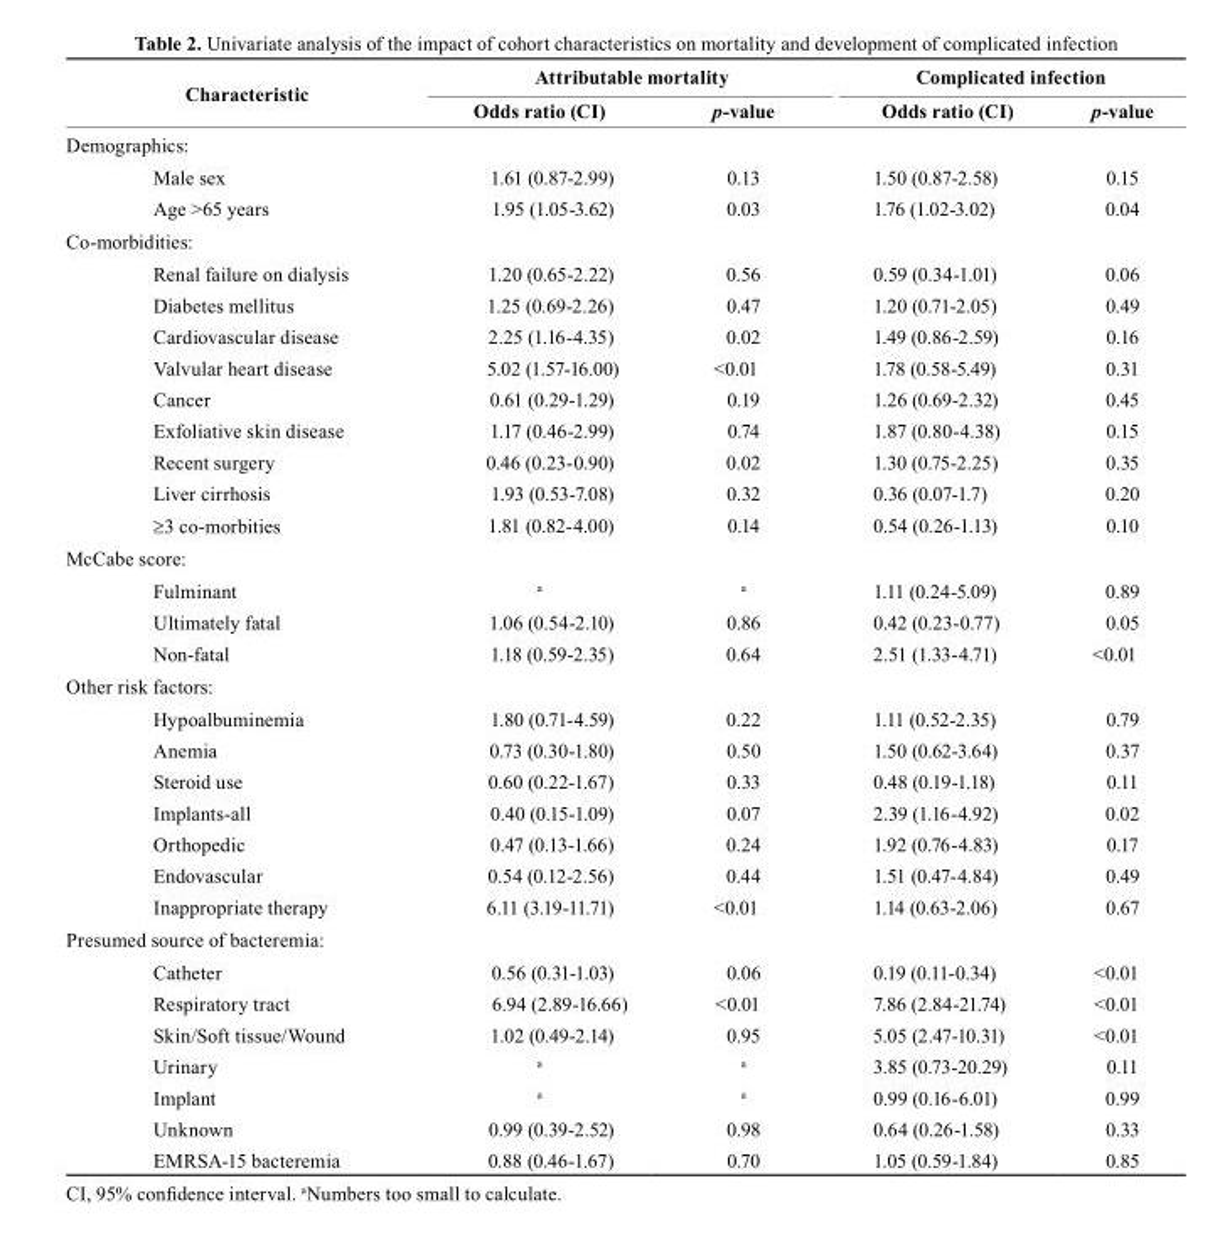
<table><thead><tr><td rowspan="2">characteristic</td><td colspan="2">Attributable mortality</td><td colspan="2">complicated infection</td></tr><tr><td>odds ratio (cI)</td><td>p-value</td><td>odds ratio (cI)</td><td>p-value</td></tr></thead><tbody><tr><td colspan="5">Demographics:</td></tr><tr><td>Male sex</td><td>1.61 (0.87-2.99)</td><td>0.13</td><td>1.50 (0.87-2.58)</td><td>0.15</td></tr><tr><td>Age &gt;65 years</td><td>1.95 (1.05-3.62)</td><td>0.03</td><td>1.76 (1.02-3.02)</td><td>0.04</td></tr><tr><td colspan="5">Co-morbidities:</td></tr><tr><td>Renal failure on dialysis</td><td>1.20 (0.65-2.22)</td><td>0.56</td><td>0.59 (0.34-1.01)</td><td>0.06</td></tr><tr><td>Diabetes mellitus</td><td>1.25 (0.69-2.26)</td><td>0.47</td><td>1.20 (0.71-2.05)</td><td>0.49</td></tr><tr><td>Cardiovascular disease</td><td>2.25 (1.16-4.35)</td><td>0.02</td><td>1.49 (0.86-2.59)</td><td>0.16</td></tr><tr><td>Valvular heart disease</td><td>5.02 (1.57-16.00)</td><td>&lt;0.01</td><td>1.78 (0.58-5.49)</td><td>0.31</td></tr><tr><td>Cancer</td><td>0.61 (0.29-1.29)</td><td>0.19</td><td>1.26 (0.69-2.32)</td><td>0.45</td></tr><tr><td>Exfoliative skin disease</td><td>1.17 (0.46-2.99)</td><td>0.74</td><td>1.87 (0.80-4.38)</td><td>0.15</td></tr><tr><td>Recent surgery</td><td>0.46 (0.23-0.90)</td><td>0.02</td><td>1.30 (0.75-2.25)</td><td>0.35</td></tr><tr><td>Liver cirrhosis</td><td>1.93 (0.53-7.08)</td><td>0.32</td><td>0.36 (0.07-1.7)</td><td>0.20</td></tr><tr><td>≥3 co-morbities</td><td>1.81 (0.82-4.00)</td><td>0.14</td><td>0.54 (0.26-1.13)</td><td>0.10</td></tr><tr><td colspan="5">McCabe score:</td></tr><tr><td>Fulminant</td><td>a</td><td>a</td><td>1.11 (0.24-5.09)</td><td>0.89</td></tr><tr><td>Ultimately fatal</td><td>1.06 (0.54-2.10)</td><td>0.86</td><td>0.42 (0.23-0.77)</td><td>0.05</td></tr><tr><td>Non-fatal</td><td>1.18 (0.59-2.35)</td><td>0.64</td><td>2.51 (1.33-4.71)</td><td>&lt;0.01</td></tr><tr><td colspan="5">Other risk factors:</td></tr><tr><td>Hypoalbuminemia</td><td>1.80 (0.71-4.59)</td><td>0.22</td><td>1.11 (0.52-2.35)</td><td>0.79</td></tr><tr><td>Anemia</td><td>0.73 (0.30-1.80)</td><td>0.50</td><td>1.50 (0.62-3.64)</td><td>0.37</td></tr><tr><td>Steroid use</td><td>0.60 (0.22-1.67)</td><td>0.33</td><td>0.48 (0.19-1.18)</td><td>0.11</td></tr><tr><td>Implants-all</td><td>0.40 (0.15-1.09)</td><td>0.07</td><td>2.39 (1.16-4.92)</td><td>0.02</td></tr><tr><td>Orthopedic</td><td>0.47 (0.13-1.66)</td><td>0.24</td><td>1.92 (0.76-4.83)</td><td>0.17</td></tr><tr><td>Endovascular</td><td>0.54 (0.12-2.56)</td><td>0.44</td><td>1.51 (0.47-4.84)</td><td>0.49</td></tr><tr><td>Inappropriate therapy</td><td>6.11 (3.19-11.71)</td><td>&lt;0.01</td><td>1.14 (0.63-2.06)</td><td>0.67</td></tr><tr><td colspan="5">Presumed source of bacteremia:</td></tr><tr><td>Catheter</td><td>0.56 (0.31-1.03)</td><td>0.06</td><td>0.19 (0.11-0.34)</td><td>&lt;0.01</td></tr><tr><td>Respiratory tract</td><td>6.94 (2.89-16.66)</td><td>&lt;0.01</td><td>7.86 (2.84-21.74)</td><td>&lt;0.01</td></tr><tr><td>Skin/Soft tissue/Wound</td><td>1.02 (0.49-2.14)</td><td>0.95</td><td>5.05 (2.47-10.31)</td><td>&lt;0.01</td></tr><tr><td>Urinary</td><td>a</td><td>a</td><td>3.85 (0.73-20.29)</td><td>0.11</td></tr><tr><td>Implant</td><td>a</td><td>a</td><td>0.99 (0.16-6.01)</td><td>0.99</td></tr><tr><td>Unknown</td><td>0.99 (0.39-2.52)</td><td>0.98</td><td>0.64 (0.26-1.58)</td><td>0.33</td></tr><tr><td>EMRSA-15 bacteremia</td><td>0.88 (0.46-1.67)</td><td>0.70</td><td>1.05 (0.59-1.84)</td><td>0.85</td></tr></tbody></table>